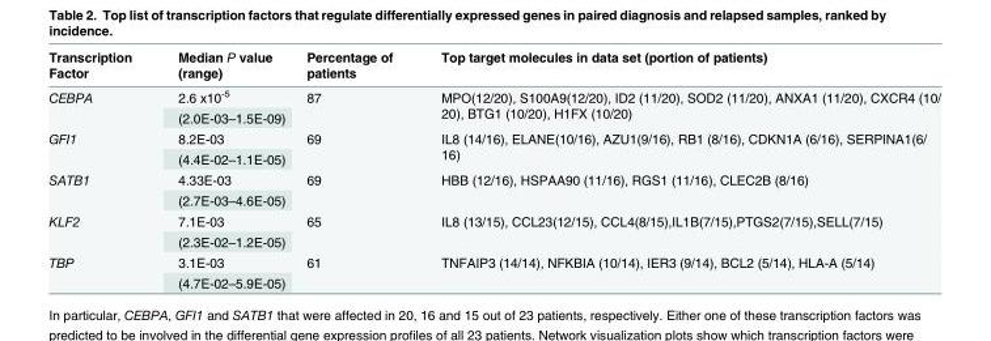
<table><thead><tr><td>Transcription Factor</td><td>Median P value (range)</td><td>Percentage of patients</td><td>Top target molecules in data set (portion of patients)</td></tr></thead><tbody><tr><td rowspan="2">CEBPA</td><td>2.6 x10<sup>-5</sup></td><td rowspan="2">87</td><td rowspan="2">MPO(12/20), S100A9(12/20), ID2 (11/20), SOD2 (11/20), ANXA1 (11/20), CXCR4 (10/ 20), BTG1 (10/20), H1FX (10/20)</td></tr><tr><td>(2.0E-03–1.5E-09)</td></tr><tr><td rowspan="2">GFI1</td><td>8.2E-03</td><td rowspan="2">69</td><td rowspan="2">IL8 (14/16), ELANE(10/16), AZU1(9/16), RB1 (8/16), CDKN1A (6/16), SERPINA1(6/ 16)</td></tr><tr><td>(4.4E-02–1.1E-05)</td></tr><tr><td rowspan="2">SATB1</td><td>4.33E-03</td><td rowspan="2">69</td><td rowspan="2">HBB (12/16), HSPAA90 (11/16), RGS1 (11/16), CLEC2B (8/16)</td></tr><tr><td>(2.7E-03–4.6E-05)</td></tr><tr><td rowspan="2">KLF2</td><td>7.1E-03</td><td rowspan="2">65</td><td rowspan="2">IL8 (13/15), CCL23(12/15), CCL4(8/15),IL1B(7/15),PTGS2(7/15),SELL(7/15)</td></tr><tr><td>(2.3E-02–1.2E-05)</td></tr><tr><td rowspan="2">TBP</td><td>3.1E-03</td><td rowspan="2">61</td><td rowspan="2">TNFAIP3 (14/14), NFKBIA (10/14), IER3 (9/14), BCL2 (5/14), HLA-A (5/14)</td></tr><tr><td>(4.7E-02–5.9E-05)</td></tr></tbody></table>